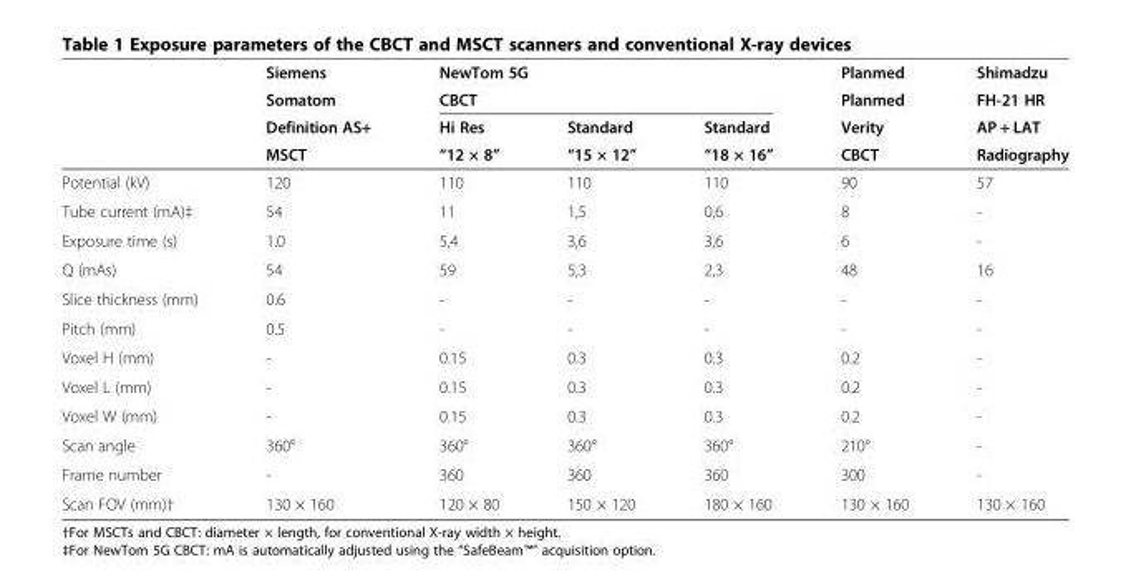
<table><thead><tr><td rowspan="4"></td><td rowspan="4">Siemens Somatom Definition AS+ MSCT</td><td rowspan="2" colspan="3">NewTom 5G CBCT</td><td rowspan="4">Planmed Planmed Verity CBCT</td><td rowspan="4">Shimadzu FH-21 HR AP + LAT Radiography</td></tr><tr></tr><tr><td rowspan="2">Hi Res “12 × 8”</td><td rowspan="2">Standard “15 × 12”</td><td rowspan="2">Standard “18 × 16”</td></tr><tr></tr></thead><tbody><tr><td>Potential (kV)</td><td>120</td><td>110</td><td>110</td><td>110</td><td>90</td><td>57</td></tr><tr><td>Tube current (mA)‡</td><td>54</td><td>11</td><td>1,5</td><td>0,6</td><td>8</td><td>-</td></tr><tr><td>Exposure time (s)</td><td>1.0</td><td>5,4</td><td>3,6</td><td>3,6</td><td>6</td><td>-</td></tr><tr><td>Q (mAs)</td><td>54</td><td>59</td><td>5,3</td><td>2,3</td><td>48</td><td>16</td></tr><tr><td>Slice thickness (mm)</td><td>0.6</td><td>-</td><td>-</td><td>-</td><td>-</td><td>-</td></tr><tr><td>Pitch (mm)</td><td>0.5</td><td>-</td><td>-</td><td>-</td><td>-</td><td>-</td></tr><tr><td>Voxel H (mm)</td><td>-</td><td>0.15</td><td>0.3</td><td>0.3</td><td>0.2</td><td>-</td></tr><tr><td>Voxel L (mm)</td><td>-</td><td>0.15</td><td>0.3</td><td>0.3</td><td>0.2</td><td>-</td></tr><tr><td>Voxel W (mm)</td><td>-</td><td>0.15</td><td>0.3</td><td>0.3</td><td>0.2</td><td>-</td></tr><tr><td>Scan angle</td><td>360°</td><td>360°</td><td>360°</td><td>360°</td><td>210°</td><td>-</td></tr><tr><td>Frame number</td><td>-</td><td>360</td><td>360</td><td>360</td><td>300</td><td>-</td></tr><tr><td>Scan FOV (mm)†</td><td>130 × 160</td><td>120 × 80</td><td>150 × 120</td><td>180 × 160</td><td>130 × 160</td><td>130 × 160</td></tr></tbody></table>